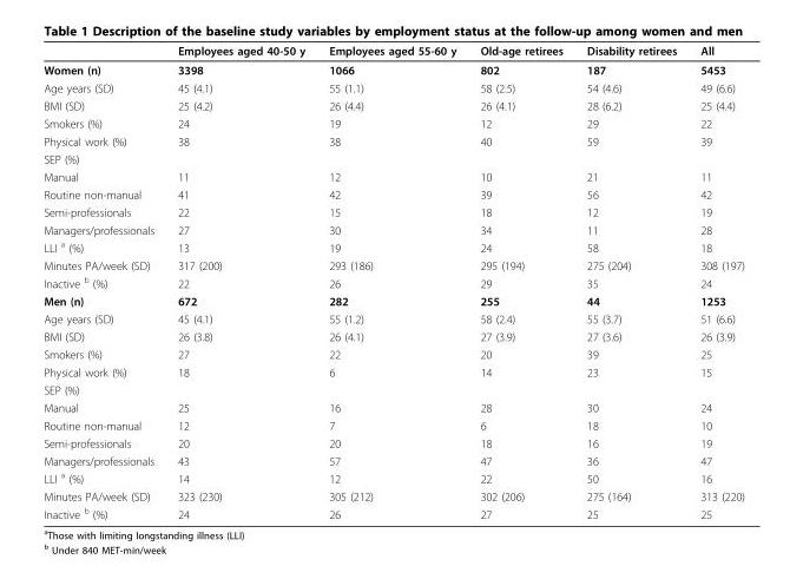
<table><thead><tr><td></td><td>Employees aged 40-50 y</td><td>Employees aged 55-60 y</td><td>Old-age retirees</td><td>Disability retirees</td><td>All</td></tr></thead><tbody><tr><td>Women (n)</td><td>3398</td><td>1066</td><td>802</td><td>187</td><td>5453</td></tr><tr><td>Age years (SD)</td><td>45 (4.1)</td><td>55 (1.1)</td><td>58 (2.5)</td><td>54 (4.6)</td><td>49 (6.6)</td></tr><tr><td>BMI (SD)</td><td>25 (4.2)</td><td>26 (4.4)</td><td>26 (4.1)</td><td>28 (6.2)</td><td>25 (4.4)</td></tr><tr><td>Smokers (%)</td><td>24</td><td>19</td><td>12</td><td>29</td><td>22</td></tr><tr><td>Physical work (%)</td><td>38</td><td>38</td><td>40</td><td>59</td><td>39</td></tr><tr><td colspan="6">SEP (%)</td></tr><tr><td>Manual</td><td>11</td><td>12</td><td>10</td><td>21</td><td>11</td></tr><tr><td>Routine non-manual</td><td>41</td><td>42</td><td>39</td><td>56</td><td>42</td></tr><tr><td>Semi-professionals</td><td>22</td><td>15</td><td>18</td><td>12</td><td>19</td></tr><tr><td>Managers/professionals</td><td>27</td><td>30</td><td>34</td><td>11</td><td>28</td></tr><tr><td>LLI <sup>a</sup> (%)</td><td>13</td><td>19</td><td>24</td><td>58</td><td>18</td></tr><tr><td>Minutes PA/week (SD)</td><td>317 (200)</td><td>293 (186)</td><td>295 (194)</td><td>275 (204)</td><td>308 (197)</td></tr><tr><td>Inactive <sup>b</sup> (%)</td><td>22</td><td>26</td><td>29</td><td>35</td><td>24</td></tr><tr><td>Men (n)</td><td>672</td><td>282</td><td>255</td><td>44</td><td>1253</td></tr><tr><td>Age years (SD)</td><td>45 (4.1)</td><td>55 (1.2)</td><td>58 (2.4)</td><td>55 (3.7)</td><td>51 (6.6)</td></tr><tr><td>BMI (SD)</td><td>26 (3.8)</td><td>26 (4.1)</td><td>27 (3.9)</td><td>27 (3.6)</td><td>26 (3.9)</td></tr><tr><td>Smokers (%)</td><td>27</td><td>22</td><td>20</td><td>39</td><td>25</td></tr><tr><td>Physical work (%)</td><td>18</td><td>6</td><td>14</td><td>23</td><td>15</td></tr><tr><td colspan="6">SEP (%)</td></tr><tr><td>Manual</td><td>25</td><td>16</td><td>28</td><td>30</td><td>24</td></tr><tr><td>Routine non-manual</td><td>12</td><td>7</td><td>6</td><td>18</td><td>10</td></tr><tr><td>Semi-professionals</td><td>20</td><td>20</td><td>18</td><td>16</td><td>19</td></tr><tr><td>Managers/professionals</td><td>43</td><td>57</td><td>47</td><td>36</td><td>47</td></tr><tr><td>LLI <sup>a</sup> (%)</td><td>14</td><td>12</td><td>22</td><td>50</td><td>16</td></tr><tr><td>Minutes PA/week (SD)</td><td>323 (230)</td><td>305 (212)</td><td>302 (206)</td><td>275 (164)</td><td>313 (220)</td></tr><tr><td>Inactive <sup>b</sup> (%)</td><td>24</td><td>26</td><td>27</td><td>25</td><td>25</td></tr></tbody></table>